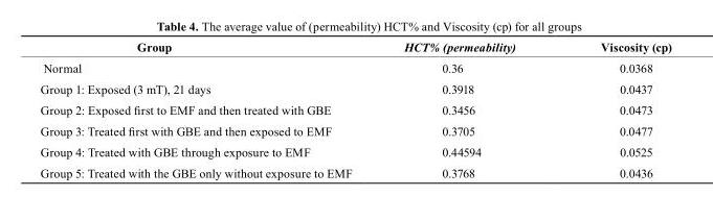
<table><thead><tr><td>Group</td><td>HCT% (permeability)</td><td>Viscosity (cp)</td></tr></thead><tbody><tr><td>Normal</td><td>0.36</td><td>0.0368</td></tr><tr><td>Group 1: Exposed (3 mT), 21 days</td><td>0.3918</td><td>0.0437</td></tr><tr><td>Group 2: Exposed first to EMF and then treated with GBE</td><td>0.3456</td><td>0.0473</td></tr><tr><td>Group 3: Treated first with GBE and then exposed to EMF</td><td>0.3705</td><td>0.0477</td></tr><tr><td>Group 4: Treated with GBE through exposure to EMF</td><td>0.44594</td><td>0.0525</td></tr><tr><td>Group 5: Treated with the GBE only without exposure to EMF</td><td>0.3768</td><td>0.0436</td></tr></tbody></table>